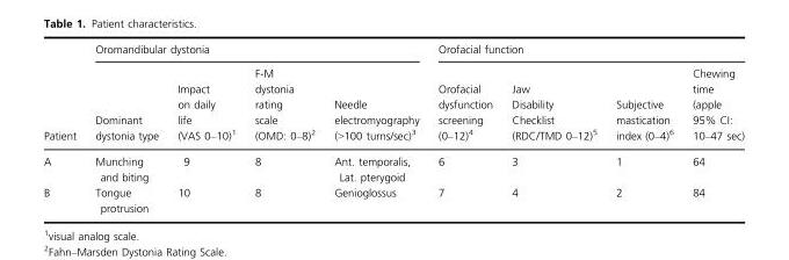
<table><thead><tr><td rowspan="2">Patient</td><td colspan="4">Oromandibular dystonia</td><td colspan="4">Orofacial function</td></tr><tr><td>Dominant dystonia type</td><td>Impact on daily life (VAS 0–10)1</td><td>F-M dystonia rating scale (OMD: 0–8)2</td><td>Needle electromyography (&gt;100 turns/sec)3</td><td>Orofacial dysfunction screening (0–12)4</td><td>Jaw Disability Checklist (RDC/TMD 0–12)5</td><td>Subjective mastication index (0–4)6</td><td>Chewing time (apple 95% CI: 10–47 sec)</td></tr></thead><tbody><tr><td>A</td><td>Munching and biting</td><td>9</td><td>8</td><td>Ant. temporalis, Lat. pterygoid</td><td>6</td><td>3</td><td>1</td><td>64</td></tr><tr><td>B</td><td>Tongue protrusion</td><td>10</td><td>8</td><td>Genioglossus</td><td>7</td><td>4</td><td>2</td><td>84</td></tr></tbody></table>